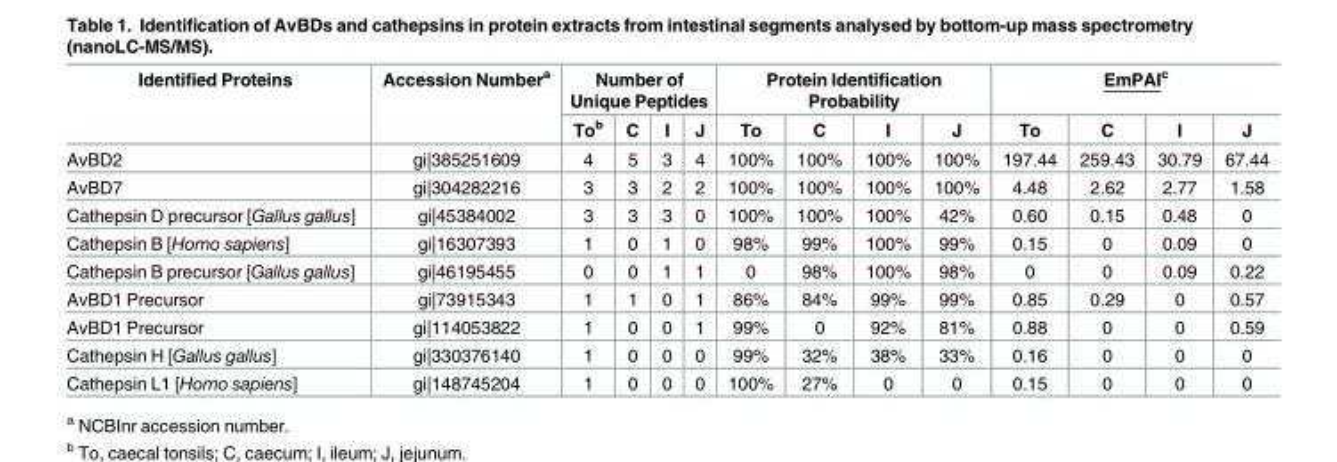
<table><thead><tr><td rowspan="2">Identified Proteins</td><td rowspan="2">Accession Number<sup>a</sup></td><td colspan="4">Number of Unique Peptides</td><td colspan="4">Protein Identification Probability</td><td colspan="4">EmPAI<sup>c</sup></td></tr><tr><td>To<sup>b</sup></td><td>C</td><td>I</td><td>J</td><td>To</td><td>C</td><td>I</td><td>J</td><td>To</td><td>C</td><td>I</td><td>J</td></tr></thead><tbody><tr><td>AvBD2</td><td>gi|385251609</td><td>4</td><td>5</td><td>3</td><td>4</td><td>100%</td><td>100%</td><td>100%</td><td>100%</td><td>197.44</td><td>259.43</td><td>30.79</td><td>67.44</td></tr><tr><td>AvBD7</td><td>gi|304282216</td><td>3</td><td>3</td><td>2</td><td>2</td><td>100%</td><td>100%</td><td>100%</td><td>100%</td><td>4.48</td><td>2.62</td><td>2.77</td><td>1.58</td></tr><tr><td>Cathepsin D precursor [Gallus gallus]</td><td>gi|45384002</td><td>3</td><td>3</td><td>3</td><td>0</td><td>100%</td><td>100%</td><td>100%</td><td>42%</td><td>0.60</td><td>0.15</td><td>0.48</td><td>0</td></tr><tr><td>Cathepsin B [Homo sapiens]</td><td>gi|16307393</td><td>1</td><td>0</td><td>1</td><td>0</td><td>98%</td><td>99%</td><td>100%</td><td>99%</td><td>0.15</td><td>0</td><td>0.09</td><td>0</td></tr><tr><td>Cathepsin B precursor [Gallus gallus]</td><td>gi|46195455</td><td>0</td><td>0</td><td>1</td><td>1</td><td>0</td><td>98%</td><td>100%</td><td>98%</td><td>0</td><td>0</td><td>0.09</td><td>0.22</td></tr><tr><td>AvBD1 Precursor</td><td>gi|73915343</td><td>1</td><td>1</td><td>0</td><td>1</td><td>86%</td><td>84%</td><td>99%</td><td>99%</td><td>0.85</td><td>0.29</td><td>0</td><td>0.57</td></tr><tr><td>AvBD1 Precursor</td><td>gi|114053822</td><td>1</td><td>0</td><td>0</td><td>1</td><td>99%</td><td>0</td><td>92%</td><td>81%</td><td>0.88</td><td>0</td><td>0</td><td>0.59</td></tr><tr><td>Cathepsin H [Gallus gallus]</td><td>gi|330376140</td><td>1</td><td>0</td><td>0</td><td>0</td><td>99%</td><td>32%</td><td>38%</td><td>33%</td><td>0.16</td><td>0</td><td>0</td><td>0</td></tr><tr><td>Cathepsin L1 [Homo sapiens]</td><td>gi|148745204</td><td>1</td><td>0</td><td>0</td><td>0</td><td>100%</td><td>27%</td><td>0</td><td>0</td><td>0.15</td><td>0</td><td>0</td><td>0</td></tr></tbody></table>